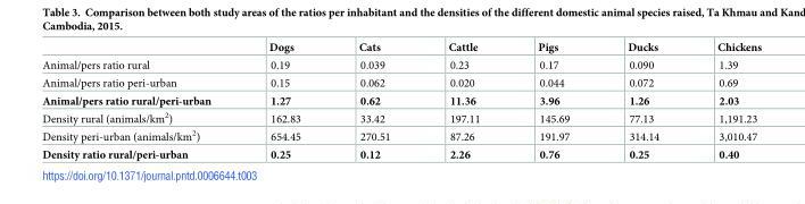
<table><thead><tr><td></td><td>Dogs</td><td>Cats</td><td>Cattle</td><td>Pigs</td><td>Ducks</td><td>Chickens</td></tr></thead><tbody><tr><td>Animal/pers ratio rural</td><td>0.19</td><td>0.039</td><td>0.23</td><td>0.17</td><td>0.090</td><td>1.39</td></tr><tr><td>Animal/pers ratio peri-urban</td><td>0.15</td><td>0.062</td><td>0.020</td><td>0.044</td><td>0.072</td><td>0.69</td></tr><tr><td>Animal/pers ratio rural/peri-urban</td><td>1.27</td><td>0.62</td><td>11.36</td><td>3.96</td><td>1.26</td><td>2.03</td></tr><tr><td>Density rural (animals/km<sup>2</sup>)</td><td>162.83</td><td>33.42</td><td>197.11</td><td>145.69</td><td>77.13</td><td>1,191.23</td></tr><tr><td>Density peri-urban (animals/km<sup>2</sup>)</td><td>654.45</td><td>270.51</td><td>87.26</td><td>191.97</td><td>314.14</td><td>3,010.47</td></tr><tr><td>Density ratio rural/peri-urban</td><td>0.25</td><td>0.12</td><td>2.26</td><td>0.76</td><td>0.25</td><td>0.40</td></tr></tbody></table>